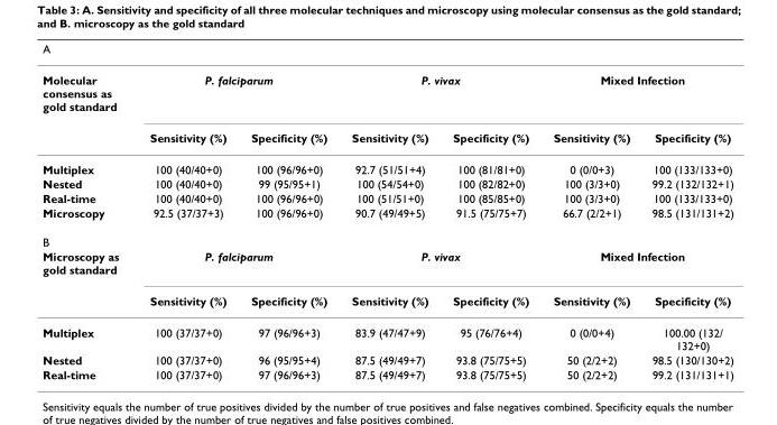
<table><thead><tr><td colspan="7">A</td></tr><tr><td rowspan="2">Molecular consensus as gold standard</td><td colspan="2">P. falciparum</td><td colspan="2">P. vivax</td><td colspan="2">Mixed Infection</td></tr><tr><td>Sensitivity (%)</td><td>Specificity (%)</td><td>Sensitivity (%)</td><td>Specificity (%)</td><td>Sensitivity (%)</td><td>Specificity (%)</td></tr></thead><tbody><tr><td>Multiplex</td><td>100 (40/40+0)</td><td>100 (96/96+0)</td><td>92.7 (51/51+4)</td><td>100 (81/81+0)</td><td>0 (0/0+3)</td><td>100 (133/133+0)</td></tr><tr><td>Nested</td><td>100 (40/40+0)</td><td>99 (95/95+1)</td><td>100 (54/54+0)</td><td>100 (82/82+0)</td><td>100 (3/3+0)</td><td>99.2 (132/132+1)</td></tr><tr><td>Real-time</td><td>100 (40/40+0)</td><td>100 (96/96+0)</td><td>100 (51/51+0)</td><td>100 (85/85+0)</td><td>100 (3/3+0)</td><td>100 (133/133+0)</td></tr><tr><td>Microscopy</td><td>92.5 (37/37+3)</td><td>100 (96/96+0)</td><td>90.7 (49/49+5)</td><td>91.5 (75/75+7)</td><td>66.7 (2/2+1)</td><td>98.5 (131/131+2)</td></tr><tr><td colspan="7">B</td></tr><tr><td rowspan="2">Microscopy as gold standard</td><td colspan="2">P. falciparum</td><td colspan="2">P. vivax</td><td colspan="2">Mixed Infection</td></tr><tr><td>Sensitivity (%)</td><td>Specificity (%)</td><td>Sensitivity (%)</td><td>Specificity (%)</td><td>Sensitivity (%)</td><td>Specificity (%)</td></tr><tr><td>Multiplex</td><td>100 (37/37+0)</td><td>97 (96/96+3)</td><td>83.9 (47/47+9)</td><td>95 (76/76+4)</td><td>0 (0/0+4)</td><td>100.00 (132/ 132+0)</td></tr><tr><td>Nested</td><td>100 (37/37+0)</td><td>96 (95/95+4)</td><td>87.5 (49/49+7)</td><td>93.8 (75/75+5)</td><td>50 (2/2+2)</td><td>98.5 (130/130+2)</td></tr><tr><td>Real-time</td><td>100 (37/37+0)</td><td>97 (96/96+3)</td><td>87.5 (49/49+7)</td><td>93.8 (75/75+5)</td><td>50 (2/2+2)</td><td>99.2 (131/131+1)</td></tr></tbody></table>